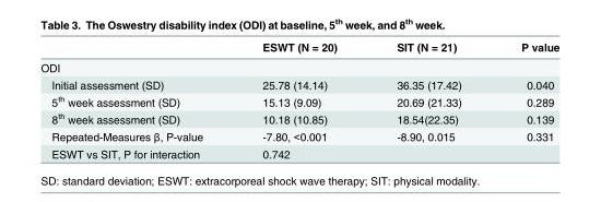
<table><thead><tr><td></td><td>ESWT (N = 20)</td><td>SIT (N = 21)</td><td>P value</td></tr></thead><tbody><tr><td colspan="4">ODI</td></tr><tr><td>Initial assessment (SD)</td><td>25.78 (14.14)</td><td>36.35 (17.42)</td><td>0.040</td></tr><tr><td>5<sup>th</sup> week assessment (SD)</td><td>15.13 (9.09)</td><td>20.69 (21.33)</td><td>0.289</td></tr><tr><td>8<sup>th</sup> week assessment (SD)</td><td>10.18 (10.85)</td><td>18.54(22.35)</td><td>0.139</td></tr><tr><td>Repeated-Measures β, P-value</td><td>-7.80, &lt;0.001</td><td>-8.90, 0.015</td><td>0.331</td></tr><tr><td>ESWT vs SIT, P for interaction</td><td>0.742</td><td></td><td></td></tr></tbody></table>